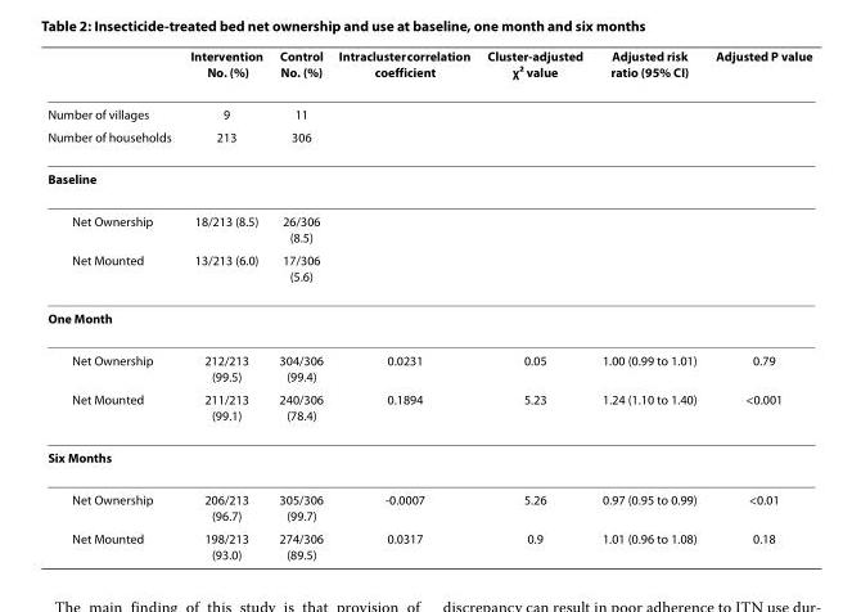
<table><thead><tr><td></td><td>Intervention No. (%)</td><td>Control No. (%)</td><td>Intracluster correlation coefficient</td><td>Cluster-adjusted χ<sup>2</sup> value</td><td>Adjusted risk ratio (95% CI)</td><td>Adjusted P value</td></tr></thead><tbody><tr><td>Number of villages</td><td>9</td><td>11</td><td></td><td></td><td></td><td></td></tr><tr><td>Number of households</td><td>213</td><td>306</td><td></td><td></td><td></td><td></td></tr><tr><td colspan="7">Baseline</td></tr><tr><td>Net Ownership</td><td>18/213 (8.5)</td><td>26/306 (8.5)</td><td></td><td></td><td></td><td></td></tr><tr><td>Net Mounted</td><td>13/213 (6.0)</td><td>17/306 (5.6)</td><td></td><td></td><td></td><td></td></tr><tr><td colspan="7">One Month</td></tr><tr><td>Net Ownership</td><td>212/213 (99.5)</td><td>304/306 (99.4)</td><td>0.0231</td><td>0.05</td><td>1.00 (0.99 to 1.01)</td><td>0.79</td></tr><tr><td>Net Mounted</td><td>211/213 (99.1)</td><td>240/306 (78.4)</td><td>0.1894</td><td>5.23</td><td>1.24 (1.10 to 1.40)</td><td>&lt;0.001</td></tr><tr><td colspan="7">Six Months</td></tr><tr><td>Net Ownership</td><td>206/213 (96.7)</td><td>305/306 (99.7)</td><td>-0.0007</td><td>5.26</td><td>0.97 (0.95 to 0.99)</td><td>&lt;0.01</td></tr><tr><td>Net Mounted</td><td>198/213 (93.0)</td><td>274/306 (89.5)</td><td>0.0317</td><td>0.9</td><td>1.01 (0.96 to 1.08)</td><td>0.18</td></tr></tbody></table>